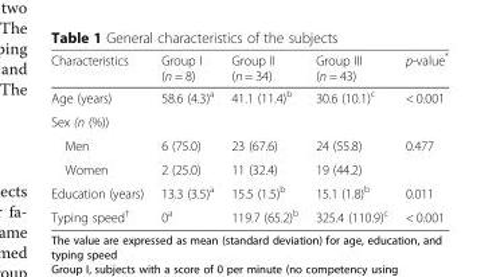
<table><thead><tr><td>Characteristics</td><td>Group I (n = 8)</td><td>Group II (n = 34)</td><td>Group III (n = 43)</td><td>p-value*</td></tr></thead><tbody><tr><td>Age (years)</td><td>58.6 (4.3)<sup>a</sup></td><td>41.1 (11.4)<sup>b</sup></td><td>30.6 (10.1)<sup>c</sup></td><td>&lt; 0.001</td></tr><tr><td colspan="5">Sex (n (%))</td></tr><tr><td>Men</td><td>6 (75.0)</td><td>23 (67.6)</td><td>24 (55.8)</td><td>0.477</td></tr><tr><td>Women</td><td>2 (25.0)</td><td>11 (32.4)</td><td>19 (44.2)</td><td></td></tr><tr><td>Education (years)</td><td>13.3 (3.5)<sup>a</sup></td><td>15.5 (1.5)<sup>b</sup></td><td>15.1 (1.8)<sup>b</sup></td><td>0.011</td></tr><tr><td>Typing speed<sup>†</sup></td><td>0<sup>a</sup></td><td>119.7 (65.2)<sup>b</sup></td><td>325.4 (110.9)<sup>c</sup></td><td>&lt; 0.001</td></tr></tbody></table>